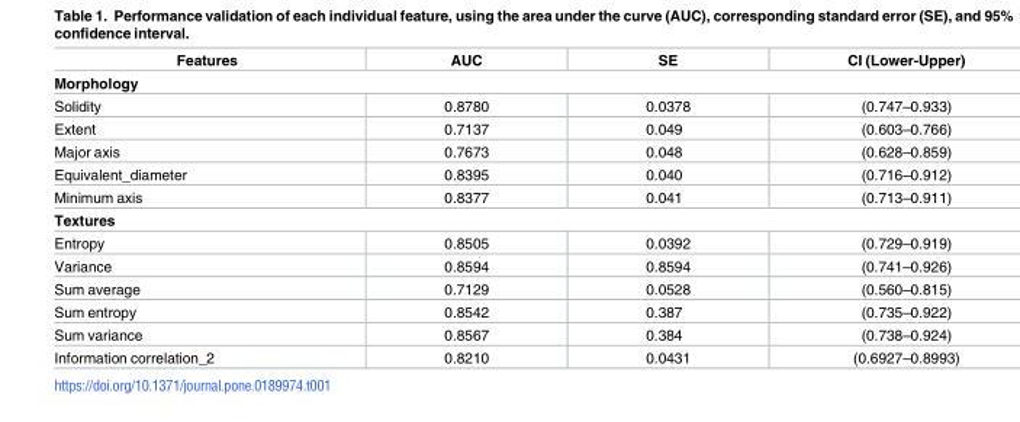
<table><thead><tr><td>Features</td><td>AUC</td><td>SE</td><td>CI (Lower-Upper)</td></tr></thead><tbody><tr><td colspan="4">Morphology</td></tr><tr><td>Solidity</td><td>0.8780</td><td>0.0378</td><td>(0.747–0.933)</td></tr><tr><td>Extent</td><td>0.7137</td><td>0.049</td><td>(0.603–0.766)</td></tr><tr><td>Major axis</td><td>0.7673</td><td>0.048</td><td>(0.628–0.859)</td></tr><tr><td>Equivalent_diameter</td><td>0.8395</td><td>0.040</td><td>(0.716–0.912)</td></tr><tr><td>Minimum axis</td><td>0.8377</td><td>0.041</td><td>(0.713–0.911)</td></tr><tr><td colspan="4">Textures</td></tr><tr><td>Entropy</td><td>0.8505</td><td>0.0392</td><td>(0.729–0.919)</td></tr><tr><td>Variance</td><td>0.8594</td><td>0.8594</td><td>(0.741–0.926)</td></tr><tr><td>Sum average</td><td>0.7129</td><td>0.0528</td><td>(0.560–0.815)</td></tr><tr><td>Sum entropy</td><td>0.8542</td><td>0.387</td><td>(0.735–0.922)</td></tr><tr><td>Sum variance</td><td>0.8567</td><td>0.384</td><td>(0.738–0.924)</td></tr><tr><td>Information correlation_2</td><td>0.8210</td><td>0.0431</td><td>(0.6927–0.8993)</td></tr></tbody></table>